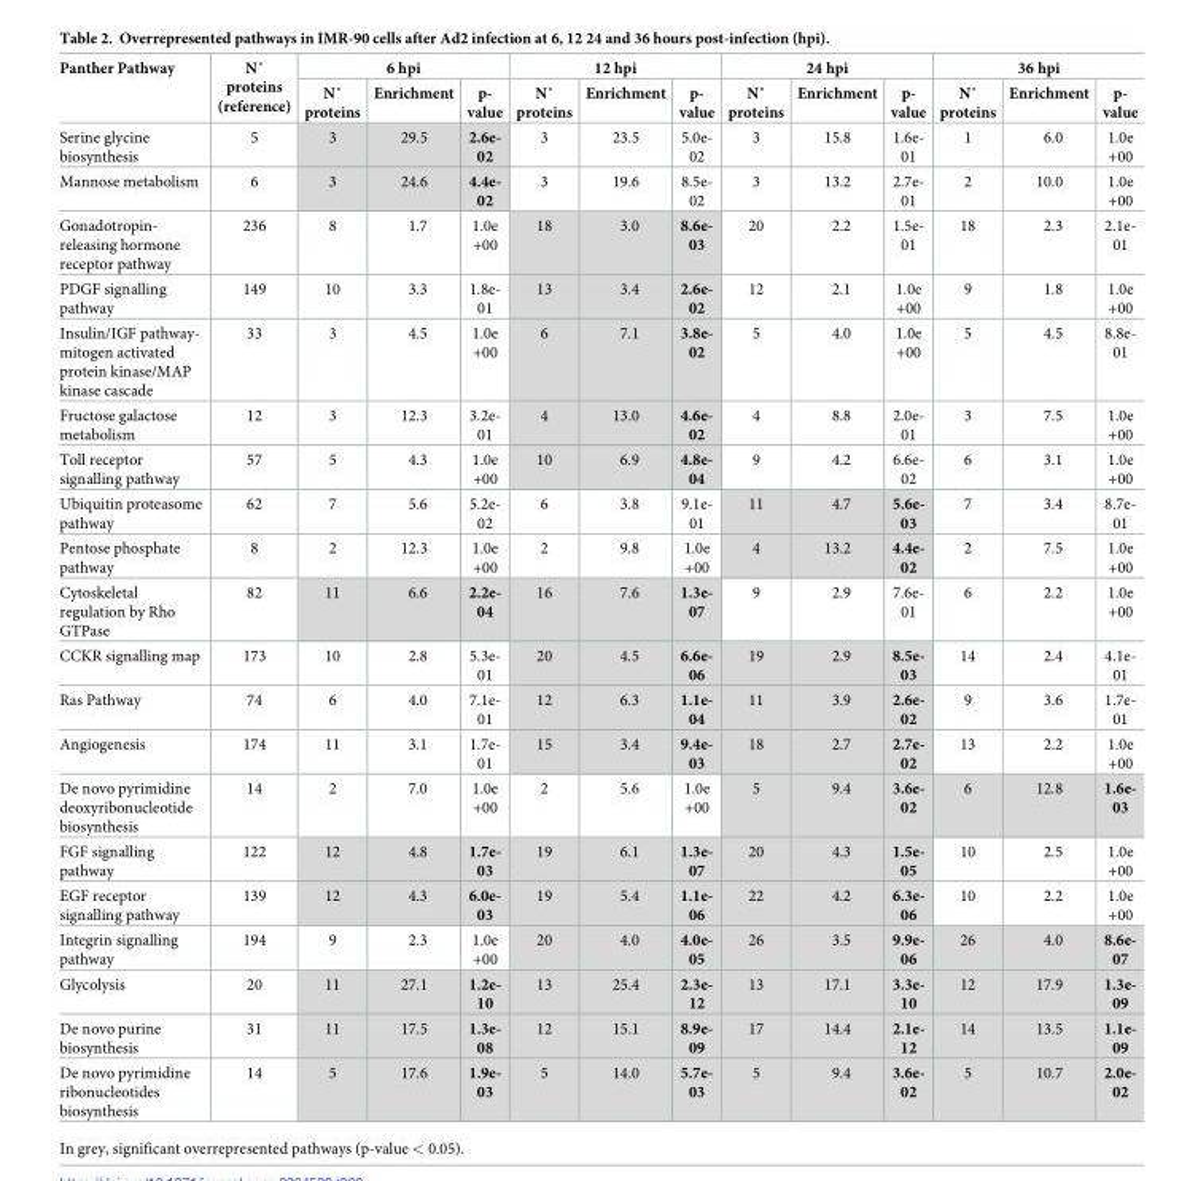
<table><thead><tr><td rowspan="2">Panther Pathway</td><td rowspan="2">N˚ proteins (reference)</td><td colspan="3">6 hpi</td><td colspan="3">12 hpi</td><td colspan="3">24 hpi</td><td colspan="3">36 hpi</td></tr><tr><td>N˚ proteins</td><td>Enrichment</td><td>p- value</td><td>N˚ proteins</td><td>Enrichment</td><td>p- value</td><td>N˚ proteins</td><td>Enrichment</td><td>p- value</td><td>N˚ proteins</td><td>Enrichment</td><td>p- value</td></tr></thead><tbody><tr><td>Serine glycine biosynthesis</td><td>5</td><td>3</td><td>29.5</td><td>2.6e- 02</td><td>3</td><td>23.5</td><td>5.0e- 02</td><td>3</td><td>15.8</td><td>1.6e- 01</td><td>1</td><td>6.0</td><td>1.0e +00</td></tr><tr><td>Mannose metabolism</td><td>6</td><td>3</td><td>24.6</td><td>4.4e- 02</td><td>3</td><td>19.6</td><td>8.5e- 02</td><td>3</td><td>13.2</td><td>2.7e- 01</td><td>2</td><td>10.0</td><td>1.0e +00</td></tr><tr><td>Gonadotropin- releasing hormone receptor pathway</td><td>236</td><td>8</td><td>1.7</td><td>1.0e +00</td><td>18</td><td>3.0</td><td>8.6e- 03</td><td>20</td><td>2.2</td><td>1.5e- 01</td><td>18</td><td>2.3</td><td>2.1e- 01</td></tr><tr><td>PDGF signalling pathway</td><td>149</td><td>10</td><td>3.3</td><td>1.8e- 01</td><td>13</td><td>3.4</td><td>2.6e- 02</td><td>12</td><td>2.1</td><td>1.0e +00</td><td>9</td><td>1.8</td><td>1.0e +00</td></tr><tr><td>Insulin/IGF pathway- mitogen activated protein kinase/MAP kinase cascade</td><td>33</td><td>3</td><td>4.5</td><td>1.0e +00</td><td>6</td><td>7.1</td><td>3.8e- 02</td><td>5</td><td>4.0</td><td>1.0e +00</td><td>5</td><td>4.5</td><td>8.8e- 01</td></tr><tr><td>Fructose galactose metabolism</td><td>12</td><td>3</td><td>12.3</td><td>3.2e- 01</td><td>4</td><td>13.0</td><td>4.6e- 02</td><td>4</td><td>8.8</td><td>2.0e- 01</td><td>3</td><td>7.5</td><td>1.0e +00</td></tr><tr><td>Toll receptor signalling pathway</td><td>57</td><td>5</td><td>4.3</td><td>1.0e +00</td><td>10</td><td>6.9</td><td>4.8e- 04</td><td>9</td><td>4.2</td><td>6.6e- 02</td><td>6</td><td>3.1</td><td>1.0e +00</td></tr><tr><td>Ubiquitin proteasome pathway</td><td>62</td><td>7</td><td>5.6</td><td>5.2e- 02</td><td>6</td><td>3.8</td><td>9.1e- 01</td><td>11</td><td>4.7</td><td>5.6e- 03</td><td>7</td><td>3.4</td><td>8.7e- 01</td></tr><tr><td>Pentose phosphate pathway</td><td>8</td><td>2</td><td>12.3</td><td>1.0e +00</td><td>2</td><td>9.8</td><td>1.0e +00</td><td>4</td><td>13.2</td><td>4.4e- 02</td><td>2</td><td>7.5</td><td>1.0e +00</td></tr><tr><td>Cytoskeletal regulation by Rho GTPase</td><td>82</td><td>11</td><td>6.6</td><td>2.2e- 04</td><td>16</td><td>7.6</td><td>1.3e- 07</td><td>9</td><td>2.9</td><td>7.6e- 01</td><td>6</td><td>2.2</td><td>1.0e +00</td></tr><tr><td>CCKR signalling map</td><td>173</td><td>10</td><td>2.8</td><td>5.3e- 01</td><td>20</td><td>4.5</td><td>6.6e- 06</td><td>19</td><td>2.9</td><td>8.5e- 03</td><td>14</td><td>2.4</td><td>4.1e- 01</td></tr><tr><td>Ras Pathway</td><td>74</td><td>6</td><td>4.0</td><td>7.1e- 01</td><td>12</td><td>6.3</td><td>1.1e- 04</td><td>11</td><td>3.9</td><td>2.6e- 02</td><td>9</td><td>3.6</td><td>1.7e- 01</td></tr><tr><td>Angiogenesis</td><td>174</td><td>11</td><td>3.1</td><td>1.7e- 01</td><td>15</td><td>3.4</td><td>9.4e- 03</td><td>18</td><td>2.7</td><td>2.7e- 02</td><td>13</td><td>2.2</td><td>1.0e +00</td></tr><tr><td>De novo pyrimidine deoxyribonucleotide biosynthesis</td><td>14</td><td>2</td><td>7.0</td><td>1.0e +00</td><td>2</td><td>5.6</td><td>1.0e +00</td><td>5</td><td>9.4</td><td>3.6e- 02</td><td>6</td><td>12.8</td><td>1.6e- 03</td></tr><tr><td>FGF signalling pathway</td><td>122</td><td>12</td><td>4.8</td><td>1.7e- 03</td><td>19</td><td>6.1</td><td>1.3e- 07</td><td>20</td><td>4.3</td><td>1.5e- 05</td><td>10</td><td>2.5</td><td>1.0e +00</td></tr><tr><td>EGF receptor signalling pathway</td><td>139</td><td>12</td><td>4.3</td><td>6.0e- 03</td><td>19</td><td>5.4</td><td>1.1e- 06</td><td>22</td><td>4.2</td><td>6.3e- 06</td><td>10</td><td>2.2</td><td>1.0e +00</td></tr><tr><td>Integrin signalling pathway</td><td>194</td><td>9</td><td>2.3</td><td>1.0e +00</td><td>20</td><td>4.0</td><td>4.0e- 05</td><td>26</td><td>3.5</td><td>9.9e- 06</td><td>26</td><td>4.0</td><td>8.6e- 07</td></tr><tr><td>Glycolysis</td><td>20</td><td>11</td><td>27.1</td><td>1.2e- 10</td><td>13</td><td>25.4</td><td>2.3e- 12</td><td>13</td><td>17.1</td><td>3.3e- 10</td><td>12</td><td>17.9</td><td>1.3e- 09</td></tr><tr><td>De novo purine biosynthesis</td><td>31</td><td>11</td><td>17.5</td><td>1.3e- 08</td><td>12</td><td>15.1</td><td>8.9e- 09</td><td>17</td><td>14.4</td><td>2.1e- 12</td><td>14</td><td>13.5</td><td>1.1e- 09</td></tr><tr><td>De novo pyrimidine ribonucleotides biosynthesis</td><td>14</td><td>5</td><td>17.6</td><td>1.9e- 03</td><td>5</td><td>14.0</td><td>5.7e- 03</td><td>5</td><td>9.4</td><td>3.6e- 02</td><td>5</td><td>10.7</td><td>2.0e- 02</td></tr></tbody></table>